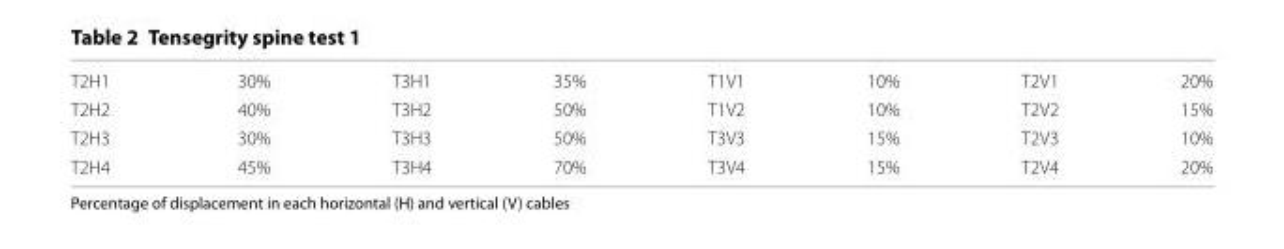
<table><tbody><tr><td>T2H1</td><td>30%</td><td>T3H1</td><td>35%</td><td>T1V1</td><td>10%</td><td>T2V1</td><td>20%</td></tr><tr><td>T2H2</td><td>40%</td><td>T3H2</td><td>50%</td><td>T1V2</td><td>10%</td><td>T2V2</td><td>15%</td></tr><tr><td>T2H3</td><td>30%</td><td>T3H3</td><td>50%</td><td>T3V3</td><td>15%</td><td>T2V3</td><td>10%</td></tr><tr><td>T2H4</td><td>45%</td><td>T3H4</td><td>70%</td><td>T3V4</td><td>15%</td><td>T2V4</td><td>20%</td></tr></tbody></table>